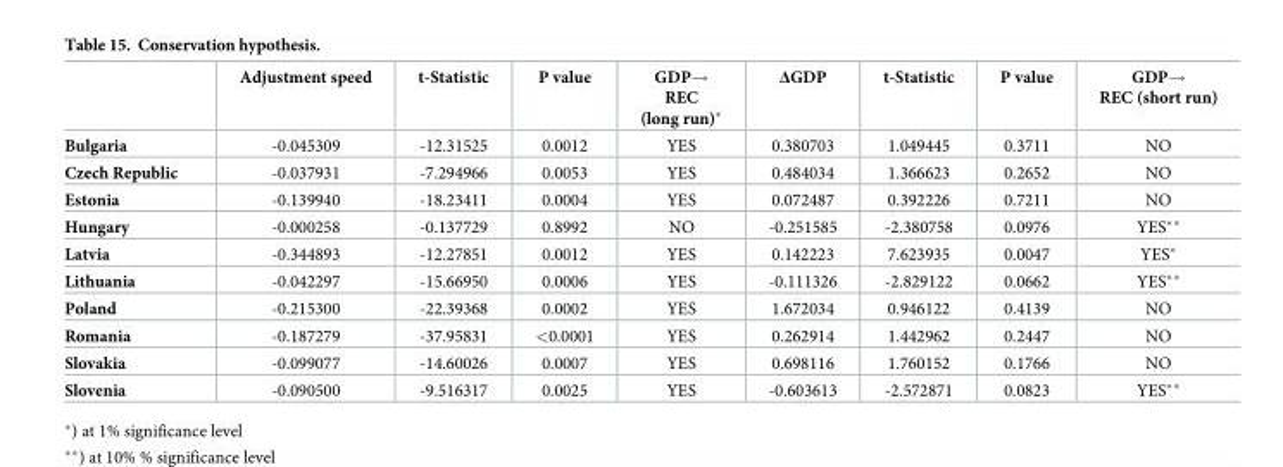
<table><thead><tr><td></td><td>Adjustment speed</td><td>t-Statistic</td><td>P value</td><td>GDP→ REC (long run)*</td><td>ΔGDP</td><td>t-Statistic</td><td>P value</td><td>GDP→ REC (short run)</td></tr></thead><tbody><tr><td>Bulgaria</td><td>-0.045309</td><td>-12.31525</td><td>0.0012</td><td>YES</td><td>0.380703</td><td>1.049445</td><td>0.3711</td><td>NO</td></tr><tr><td>Czech Republic</td><td>-0.037931</td><td>-7.294966</td><td>0.0053</td><td>YES</td><td>0.484034</td><td>1.366623</td><td>0.2652</td><td>NO</td></tr><tr><td>Estonia</td><td>-0.139940</td><td>-18.23411</td><td>0.0004</td><td>YES</td><td>0.072487</td><td>0.392226</td><td>0.7211</td><td>NO</td></tr><tr><td>Hungary</td><td>-0.000258</td><td>-0.137729</td><td>0.8992</td><td>NO</td><td>-0.251585</td><td>-2.380758</td><td>0.0976</td><td>YES**</td></tr><tr><td>Latvia</td><td>-0.344893</td><td>-12.27851</td><td>0.0012</td><td>YES</td><td>0.142223</td><td>7.623935</td><td>0.0047</td><td>YES*</td></tr><tr><td>Lithuania</td><td>-0.042297</td><td>-15.66950</td><td>0.0006</td><td>YES</td><td>-0.111326</td><td>-2.829122</td><td>0.0662</td><td>YES**</td></tr><tr><td>Poland</td><td>-0.215300</td><td>-22.39368</td><td>0.0002</td><td>YES</td><td>1.672034</td><td>0.946122</td><td>0.4139</td><td>NO</td></tr><tr><td>Romania</td><td>-0.187279</td><td>-37.95831</td><td>&lt;0.0001</td><td>YES</td><td>0.262914</td><td>1.442962</td><td>0.2447</td><td>NO</td></tr><tr><td>Slovakia</td><td>-0.099077</td><td>-14.60026</td><td>0.0007</td><td>YES</td><td>0.698116</td><td>1.760152</td><td>0.1766</td><td>NO</td></tr><tr><td>Slovenia</td><td>-0.090500</td><td>-9.516317</td><td>0.0025</td><td>YES</td><td>-0.603613</td><td>-2.572871</td><td>0.0823</td><td>YES**</td></tr></tbody></table>